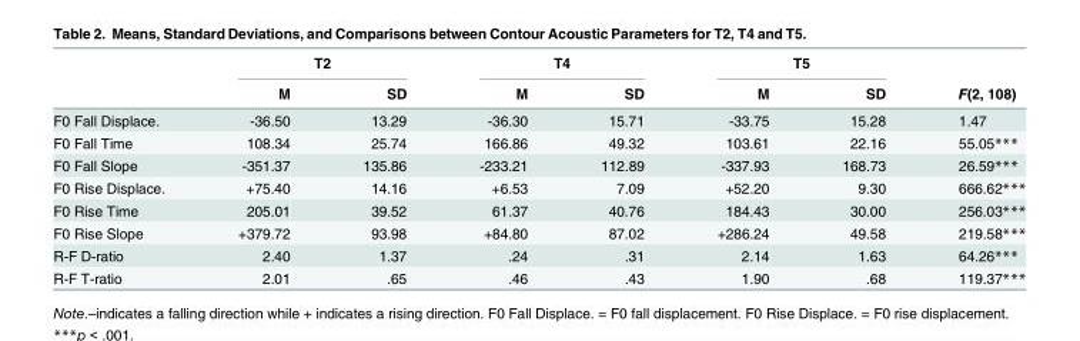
<table><thead><tr><td rowspan="2"></td><td colspan="2">T2</td><td colspan="2">T4</td><td colspan="2">T5</td><td rowspan="2">F(2, 108)</td></tr><tr><td>M</td><td>SD</td><td>M</td><td>SD</td><td>M</td><td>SD</td></tr></thead><tbody><tr><td>F0 Fall Displace.</td><td>-36.50</td><td>13.29</td><td>-36.30</td><td>15.71</td><td>-33.75</td><td>15.28</td><td>1.47</td></tr><tr><td>F0 Fall Time</td><td>108.34</td><td>25.74</td><td>166.86</td><td>49.32</td><td>103.61</td><td>22.16</td><td>55.05***</td></tr><tr><td>F0 Fall Slope</td><td>-351.37</td><td>135.86</td><td>-233.21</td><td>112.89</td><td>-337.93</td><td>168.73</td><td>26.59***</td></tr><tr><td>F0 Rise Displace.</td><td>+75.40</td><td>14.16</td><td>+6.53</td><td>7.09</td><td>+52.20</td><td>9.30</td><td>666.62***</td></tr><tr><td>F0 Rise Time</td><td>205.01</td><td>39.52</td><td>61.37</td><td>40.76</td><td>184.43</td><td>30.00</td><td>256.03***</td></tr><tr><td>F0 Rise Slope</td><td>+379.72</td><td>93.98</td><td>+84.80</td><td>87.02</td><td>+286.24</td><td>49.58</td><td>219.58***</td></tr><tr><td>R-F D-ratio</td><td>2.40</td><td>1.37</td><td>.24</td><td>.31</td><td>2.14</td><td>1.63</td><td>64.26***</td></tr><tr><td>R-F T-ratio</td><td>2.01</td><td>.65</td><td>.46</td><td>.43</td><td>1.90</td><td>.68</td><td>119.37***</td></tr></tbody></table>